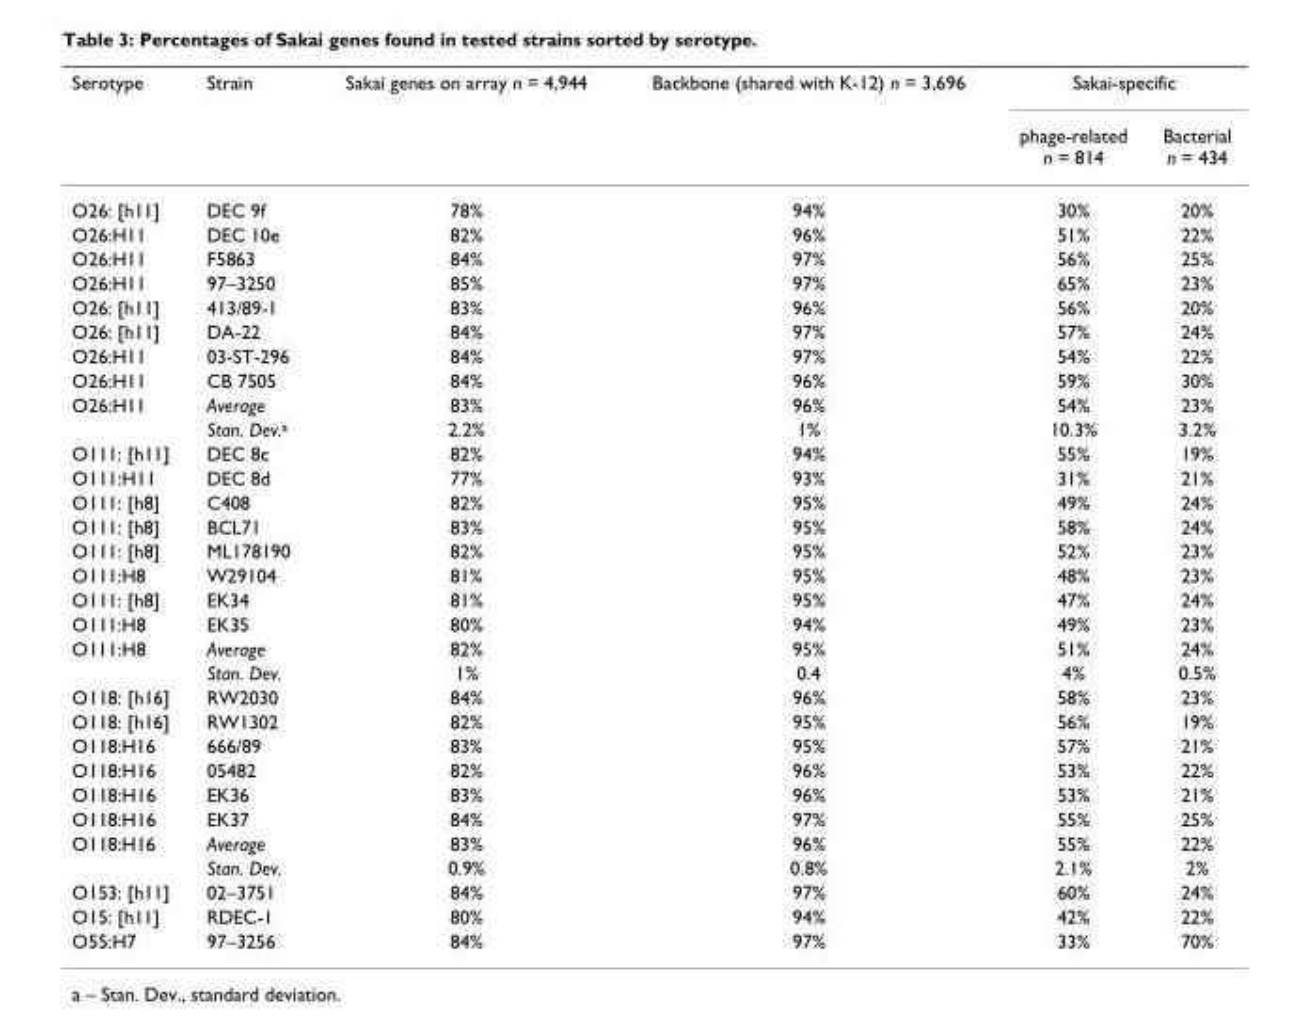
<table><thead><tr><td rowspan="2">Serotype</td><td rowspan="2">Strain</td><td rowspan="2">Sakai genes on array n = 4,944</td><td rowspan="2">Backbone (shared with K-12) n = 3,696</td><td colspan="2">Sakai-specific</td></tr><tr><td>phage-related n = 814</td><td>Bacterial n = 434</td></tr></thead><tbody><tr><td>O26: [h11]</td><td>DEC 9f</td><td>78%</td><td>94%</td><td>30%</td><td>20%</td></tr><tr><td>O26:H11</td><td>DEC 10e</td><td>82%</td><td>96%</td><td>51%</td><td>22%</td></tr><tr><td>O26:H11</td><td>F5863</td><td>84%</td><td>97%</td><td>56%</td><td>25%</td></tr><tr><td>O26:H11</td><td>97–3250</td><td>85%</td><td>97%</td><td>65%</td><td>23%</td></tr><tr><td>O26: [h11]</td><td>413/89-1</td><td>83%</td><td>96%</td><td>56%</td><td>20%</td></tr><tr><td>O26: [h11]</td><td>DA-22</td><td>84%</td><td>97%</td><td>57%</td><td>24%</td></tr><tr><td>O26:H11</td><td>03-ST-296</td><td>84%</td><td>97%</td><td>54%</td><td>22%</td></tr><tr><td>O26:H11</td><td>CB 7505</td><td>84%</td><td>96%</td><td>59%</td><td>30%</td></tr><tr><td rowspan="2">O26:H11</td><td>Average</td><td>83%</td><td>96%</td><td>54%</td><td>23%</td></tr><tr><td>Stan. Dev.<sup>a</sup></td><td>2.2%</td><td>1%</td><td>10.3%</td><td>3.2%</td></tr><tr><td>O111: [h11]</td><td>DEC 8c</td><td>82%</td><td>94%</td><td>55%</td><td>19%</td></tr><tr><td>O111:H11</td><td>DEC 8d</td><td>77%</td><td>93%</td><td>31%</td><td>21%</td></tr><tr><td>O111: [h8]</td><td>C408</td><td>82%</td><td>95%</td><td>49%</td><td>24%</td></tr><tr><td>O111: [h8]</td><td>BCL71</td><td>83%</td><td>95%</td><td>58%</td><td>24%</td></tr><tr><td>O111: [h8]</td><td>ML178190</td><td>82%</td><td>95%</td><td>52%</td><td>23%</td></tr><tr><td>O111:H8</td><td>W29104</td><td>81%</td><td>95%</td><td>48%</td><td>23%</td></tr><tr><td>O111: [h8]</td><td>EK34</td><td>81%</td><td>95%</td><td>47%</td><td>24%</td></tr><tr><td>O111:H8</td><td>EK35</td><td>80%</td><td>94%</td><td>49%</td><td>23%</td></tr><tr><td rowspan="2">O111:H8</td><td>Average</td><td>82%</td><td>95%</td><td>51%</td><td>24%</td></tr><tr><td>Stan. Dev.</td><td>1%</td><td>0.4</td><td>4%</td><td>0.5%</td></tr><tr><td>O118: [h16]</td><td>RW2030</td><td>84%</td><td>96%</td><td>58%</td><td>23%</td></tr><tr><td>O118: [h16]</td><td>RW1302</td><td>82%</td><td>95%</td><td>56%</td><td>19%</td></tr><tr><td>O118:H16</td><td>666/89</td><td>83%</td><td>95%</td><td>57%</td><td>21%</td></tr><tr><td>O118:H16</td><td>05482</td><td>82%</td><td>96%</td><td>53%</td><td>22%</td></tr><tr><td>O118:H16</td><td>EK36</td><td>83%</td><td>96%</td><td>53%</td><td>21%</td></tr><tr><td>O118:H16</td><td>EK37</td><td>84%</td><td>97%</td><td>55%</td><td>25%</td></tr><tr><td rowspan="2">O118:H16</td><td>Average</td><td>83%</td><td>96%</td><td>55%</td><td>22%</td></tr><tr><td>Stan. Dev.</td><td>0.9%</td><td>0.8%</td><td>2.1%</td><td>2%</td></tr><tr><td>O153: [h11]</td><td>02–3751</td><td>84%</td><td>97%</td><td>60%</td><td>24%</td></tr><tr><td>O15: [h11]</td><td>RDEC-1</td><td>80%</td><td>94%</td><td>42%</td><td>22%</td></tr><tr><td>O55:H7</td><td>97–3256</td><td>84%</td><td>97%</td><td>33%</td><td>70%</td></tr></tbody></table>